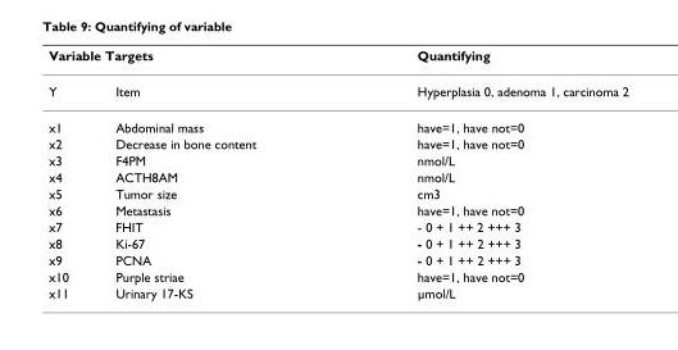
<table><thead><tr><td colspan="2">Variable Targets</td><td rowspan="2">Quantifying Hyperplasia 0, adenoma 1, carcinoma 2</td></tr><tr><td>Y</td><td>Item</td></tr></thead><tbody><tr><td>x1</td><td>Abdominal mass</td><td>have=1, have not=0</td></tr><tr><td>x2</td><td>Decrease in bone content</td><td>have=1, have not=0</td></tr><tr><td>x3</td><td>F4PM</td><td>nmol/L</td></tr><tr><td>x4</td><td>ACTH8AM</td><td>nmol/L</td></tr><tr><td>x5</td><td>Tumor size</td><td>cm3</td></tr><tr><td>x6</td><td>Metastasis</td><td>have=1, have not=0</td></tr><tr><td>x7</td><td>FHIT</td><td>- 0 + 1 ++ 2 +++ 3</td></tr><tr><td>x8</td><td>Ki-67</td><td>- 0 + 1 ++ 2 +++ 3</td></tr><tr><td>x9</td><td>PCNA</td><td>- 0 + 1 ++ 2 +++ 3</td></tr><tr><td>x10</td><td>Purple striae</td><td>have=1, have not=0</td></tr><tr><td>x11</td><td>Urinary 17-KS</td><td>μmol/L</td></tr></tbody></table>